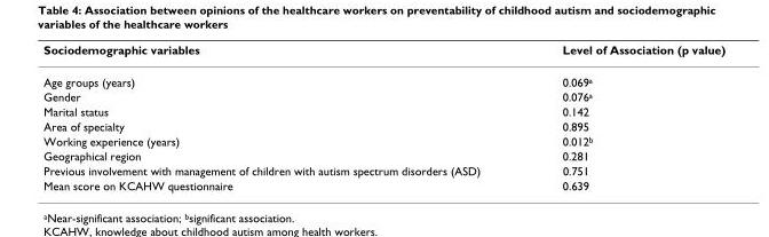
<table><thead><tr><td>Sociodemographic variables</td><td>Level of Association (p value)</td></tr></thead><tbody><tr><td>Age groups (years)</td><td>0.069<sup>a</sup></td></tr><tr><td>Gender</td><td>0.076<sup>a</sup></td></tr><tr><td>Marital status</td><td>0.142</td></tr><tr><td>Area of specialty</td><td>0.895</td></tr><tr><td>Working experience (years)</td><td>0.012<sup>b</sup></td></tr><tr><td>Geographical region</td><td>0.281</td></tr><tr><td>Previous involvement with management of children with autism spectrum disorders (ASD)</td><td>0.751</td></tr><tr><td>Mean score on KCAHW questionnaire</td><td>0.639</td></tr></tbody></table>